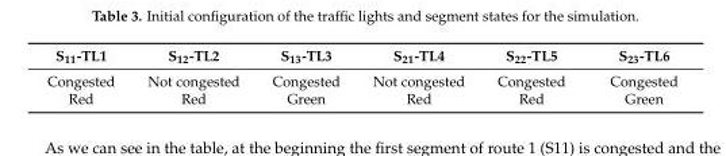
<table><thead><tr><td>S<sub>11</sub>-TL1</td><td>S<sub>12</sub>-TL2</td><td>S<sub>13</sub>-TL3</td><td>S<sub>21</sub>-TL4</td><td>S<sub>22</sub>-TL5</td><td>S<sub>23</sub>-TL6</td></tr></thead><tbody><tr><td>Congested</td><td>Not congested</td><td>Congested</td><td>Not congested</td><td>Congested</td><td>Congested</td></tr><tr><td>Red</td><td>Red</td><td>Green</td><td>Red</td><td>Red</td><td>Green</td></tr></tbody></table>